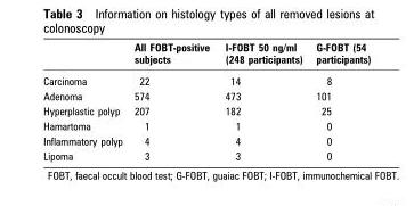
<table><thead><tr><td></td><td>All FOBT-positive subjects</td><td>I-FOBT 50 ng/ml (248 participants)</td><td>G-FOBT (54 participants)</td></tr></thead><tbody><tr><td>Carcinoma</td><td>22</td><td>14</td><td>8</td></tr><tr><td>Adenoma</td><td>574</td><td>473</td><td>101</td></tr><tr><td>Hyperplastic polyp</td><td>207</td><td>182</td><td>25</td></tr><tr><td>Hamartoma</td><td>1</td><td>1</td><td>0</td></tr><tr><td>Inflammatory polyp</td><td>4</td><td>4</td><td>0</td></tr><tr><td>Lipoma</td><td>3</td><td>3</td><td>0</td></tr></tbody></table>